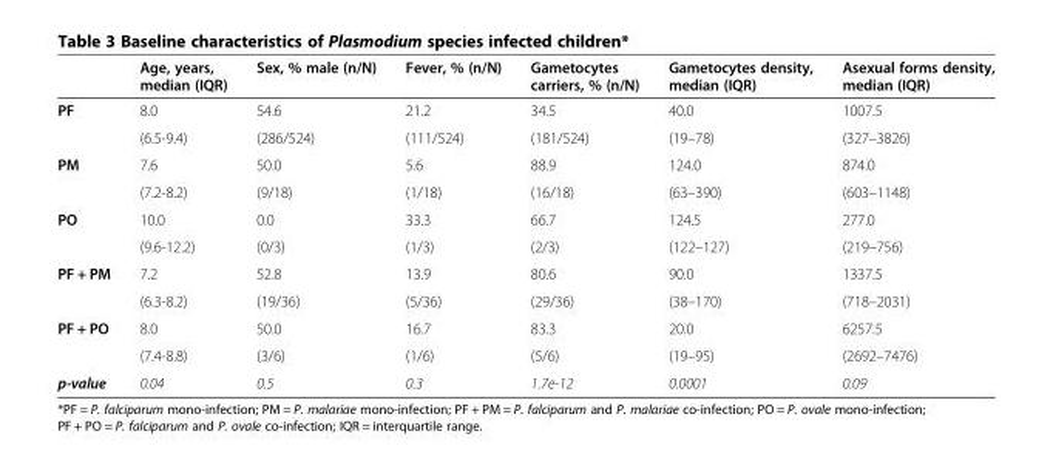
<table><thead><tr><td></td><td>Age, years, median (IQR)</td><td>Sex, % male (n/N)</td><td>Fever, % (n/N)</td><td>Gametocytes carriers, % (n/N)</td><td>Gametocytes density, median (IQR)</td><td>Asexual forms density, median (IQR)</td></tr></thead><tbody><tr><td rowspan="2">PF</td><td>8.0</td><td>54.6</td><td>21.2</td><td>34.5</td><td>40.0</td><td>1007.5</td></tr><tr><td>(6.5-9.4)</td><td>(286/524)</td><td>(111/524)</td><td>(181/524)</td><td>(19–78)</td><td>(327–3826)</td></tr><tr><td rowspan="2">PM</td><td>7.6</td><td>50.0</td><td>5.6</td><td>88.9</td><td>124.0</td><td>874.0</td></tr><tr><td>(7.2-8.2)</td><td>(9/18)</td><td>(1/18)</td><td>(16/18)</td><td>(63–390)</td><td>(603–1148)</td></tr><tr><td rowspan="2">PO</td><td>10.0</td><td>0.0</td><td>33.3</td><td>66.7</td><td>124.5</td><td>277.0</td></tr><tr><td>(9.6-12.2)</td><td>(0/3)</td><td>(1/3)</td><td>(2/3)</td><td>(122–127)</td><td>(219–756)</td></tr><tr><td rowspan="2">PF + PM</td><td>7.2</td><td>52.8</td><td>13.9</td><td>80.6</td><td>90.0</td><td>1337.5</td></tr><tr><td>(6.3-8.2)</td><td>(19/36)</td><td>(5/36)</td><td>(29/36)</td><td>(38–170)</td><td>(718–2031)</td></tr><tr><td rowspan="2">PF + PO</td><td>8.0</td><td>50.0</td><td>16.7</td><td>83.3</td><td>20.0</td><td>6257.5</td></tr><tr><td>(7.4-8.8)</td><td>(3/6)</td><td>(1/6)</td><td>(5/6)</td><td>(19–95)</td><td>(2692–7476)</td></tr><tr><td>p-value</td><td>0.04</td><td>0.5</td><td>0.3</td><td>1.7e-12</td><td>0.0001</td><td>0.09</td></tr></tbody></table>